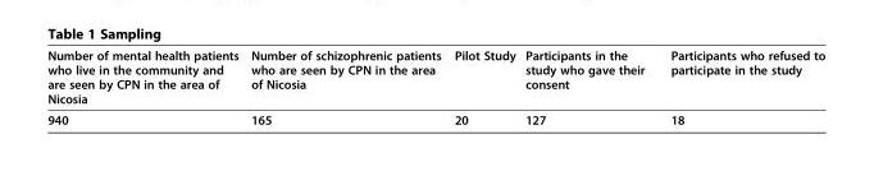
<table><thead><tr><td>Number of mental health patients who live in the community and are seen by CPN in the area of Nicosia</td><td>Number of schizophrenic patients who are seen by CPN in the area of Nicosia</td><td>Pilot Study</td><td>Participants in the study who gave their consent</td><td>Participants who refused to participate in the study</td></tr></thead><tbody><tr><td>940</td><td>165</td><td>20</td><td>127</td><td>18</td></tr></tbody></table>